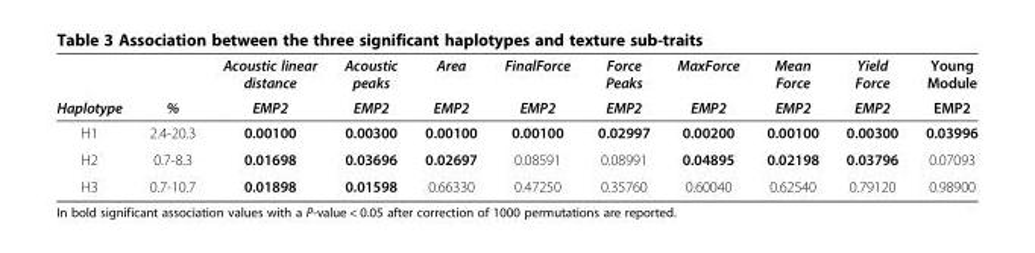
<table><thead><tr><td rowspan="2">Haplotype</td><td rowspan="2">%</td><td rowspan="2">Acoustic linear distance EMP2</td><td rowspan="2">Acoustic peaks EMP2</td><td rowspan="2">Area EMP2</td><td rowspan="2">FinalForce EMP2</td><td rowspan="2">Force Peaks EMP2</td><td rowspan="2">MaxForce EMP2</td><td rowspan="2">Mean Force EMP2</td><td rowspan="2">Yield Force EMP2</td><td rowspan="2">Young Module EMP2</td></tr><tr></tr></thead><tbody><tr><td>H1</td><td>2.4-20.3</td><td>0.00100</td><td>0.00300</td><td>0.00100</td><td>0.00100</td><td>0.02997</td><td>0.00200</td><td>0.00100</td><td>0.00300</td><td>0.03996</td></tr><tr><td>H2</td><td>0.7-8.3</td><td>0.01698</td><td>0.03696</td><td>0.02697</td><td>0.08591</td><td>0.08991</td><td>0.04895</td><td>0.02198</td><td>0.03796</td><td>0.07093</td></tr><tr><td>H3</td><td>0.7-10.7</td><td>0.01898</td><td>0.01598</td><td>0.66330</td><td>0.47250</td><td>0.35760</td><td>0.60040</td><td>0.62540</td><td>0.79120</td><td>0.98900</td></tr></tbody></table>